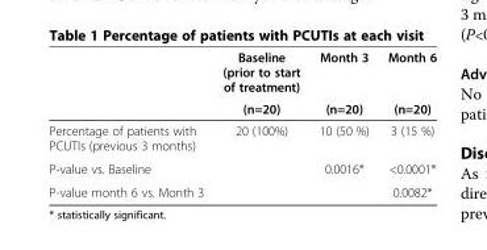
<table><thead><tr><td rowspan="2"></td><td rowspan="2">Baseline (prior to start of treatment) (n=20)</td><td rowspan="2">Month 3 (n=20)</td><td rowspan="2">Month 6 (n=20)</td></tr><tr></tr></thead><tbody><tr><td>Percentage of patients with PCUTIs (previous 3 months)</td><td>20 (100%)</td><td>10 (50 %)</td><td>3 (15 %)</td></tr><tr><td>P-value vs. Baseline</td><td></td><td>0.0016*</td><td>&lt;0.0001*</td></tr><tr><td>P-value month 6 vs. Month 3</td><td></td><td></td><td>0.0082*</td></tr></tbody></table>